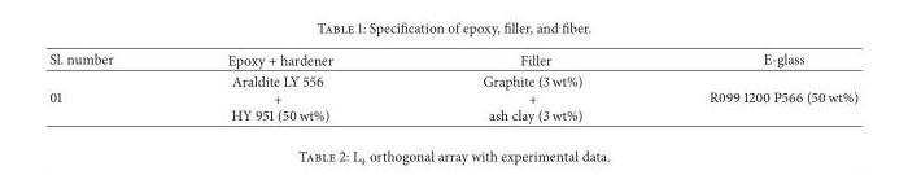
<table><thead><tr><td>Sl. number</td><td>Epoxy + hardener</td><td>Filler</td><td>E-glass</td></tr></thead><tbody><tr><td>01</td><td>Araldite LY 556 + HY 951 (50 wt%)</td><td>Graphite (3 wt%) + ash clay (3 wt%)</td><td>R099 1200 P566 (50 wt%)</td></tr></tbody></table>